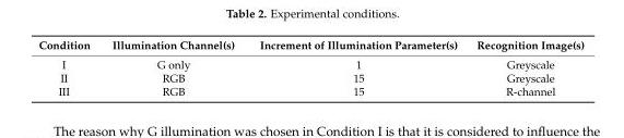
<table><thead><tr><td>Condition</td><td>Illumination Channel(s)</td><td>Increment of Illumination Parameter(s)</td><td>Recognition Image(s)</td></tr></thead><tbody><tr><td>I</td><td>G only</td><td>1</td><td>Greyscale</td></tr><tr><td>II</td><td>RGB</td><td>15</td><td>Greyscale</td></tr><tr><td>III</td><td>RGB</td><td>15</td><td>R-channel</td></tr></tbody></table>